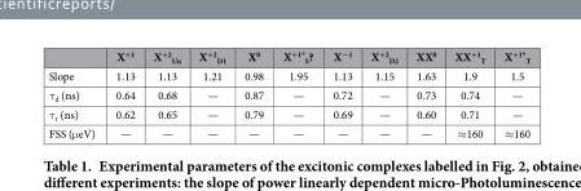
<table><thead><tr><td></td><td>X<sup>+1</sup></td><td>X<sup>+2</sup> <sub>Un</sub></td><td>X<sup>+2</sup> <sub>D1</sub></td><td>X<sup>0</sup></td><td>X<sup>+1*</sup> <sub>S</sub>?</td><td>X<sup>−1</sup></td><td>X<sup>+2</sup> <sub>D2</sub></td><td>XX<sup>0</sup></td><td>XX<sup>+1</sup> <sub>T</sub></td><td>X<sup>+1*</sup> <sub>T</sub></td></tr></thead><tbody><tr><td>Slope</td><td>1.13</td><td>1.13</td><td>1.21</td><td>0.98</td><td>1.95</td><td>1.13</td><td>1.15</td><td>1.63</td><td>1.9</td><td>1.5</td></tr><tr><td>τ <sub>d</sub> (ns)</td><td>0.64</td><td>0.68</td><td>—</td><td>0.87</td><td>—</td><td>0.72</td><td>—</td><td>0.73</td><td>0.74</td><td>—</td></tr><tr><td>τ <sub>r</sub> (ns)</td><td>0.62</td><td>0.65</td><td>—</td><td>0.79</td><td>—</td><td>0.69</td><td>—</td><td>0.60</td><td>0.71</td><td>—</td></tr><tr><td>FSS (μ eV)</td><td>—</td><td>—</td><td>—</td><td>—</td><td>—</td><td>—</td><td>—</td><td>—</td><td>≈ 160</td><td>≈ 160</td></tr></tbody></table>